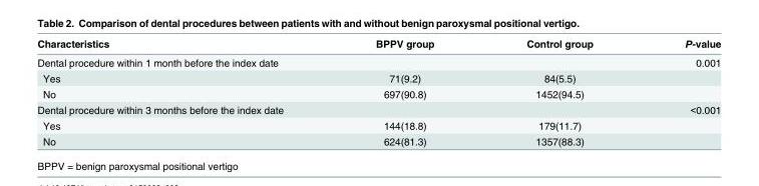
<table><thead><tr><td>Characteristics</td><td>BPPV group</td><td>Control group</td><td>P-value</td></tr></thead><tbody><tr><td>Dental procedure within 1 month before the index date</td><td></td><td></td><td>0.001</td></tr><tr><td>Yes</td><td>71(9.2)</td><td>84(5.5)</td><td></td></tr><tr><td>No</td><td>697(90.8)</td><td>1452(94.5)</td><td></td></tr><tr><td>Dental procedure within 3 months before the index date</td><td></td><td></td><td>&lt;0.001</td></tr><tr><td>Yes</td><td>144(18.8)</td><td>179(11.7)</td><td></td></tr><tr><td>No</td><td>624(81.3)</td><td>1357(88.3)</td><td></td></tr></tbody></table>